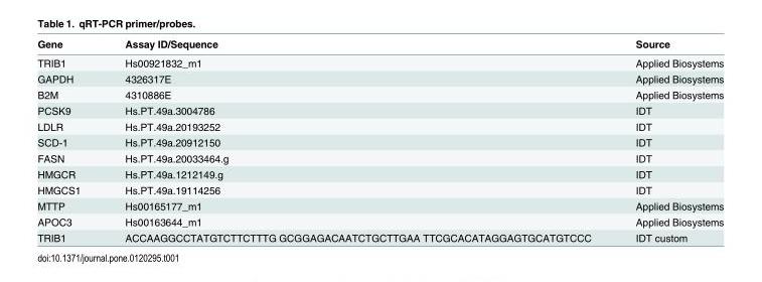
<table><thead><tr><td>Gene</td><td>Assay ID/Sequence</td><td>Source</td></tr></thead><tbody><tr><td>TRIB1</td><td>Hs00921832_m1</td><td>Applied Biosystems</td></tr><tr><td>GAPDH</td><td>4326317E</td><td>Applied Biosystems</td></tr><tr><td>B2M</td><td>4310886E</td><td>Applied Biosystems</td></tr><tr><td>PCSK9</td><td>Hs.PT.49a.3004786</td><td>IDT</td></tr><tr><td>LDLR</td><td>Hs.PT.49a.20193252</td><td>IDT</td></tr><tr><td>SCD-1</td><td>Hs.PT.49a.20912150</td><td>IDT</td></tr><tr><td>FASN</td><td>Hs.PT.49a.20033464.g</td><td>IDT</td></tr><tr><td>HMGCR</td><td>Hs.PT.49a.1212149.g</td><td>IDT</td></tr><tr><td>HMGCS1</td><td>Hs.PT.49a.19114256</td><td>IDT</td></tr><tr><td>MTTP</td><td>Hs00165177_m1</td><td>Applied Biosystems</td></tr><tr><td>APOC3</td><td>Hs00163644_m1</td><td>Applied Biosystems</td></tr><tr><td>TRIB1</td><td>ACCAAGGCCTATGTCTTCTTTG GCGGAGACAATCTGCTTGAA TTCGCACATAGGAGTGCATGTCCC</td><td>IDT custom</td></tr></tbody></table>